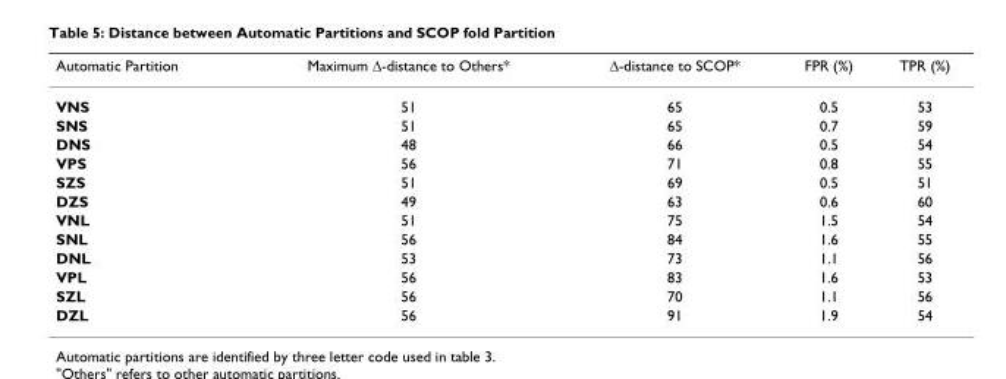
<table><thead><tr><td>Automatic Partition</td><td>Maximum Δ-distance to Others*</td><td>Δ-distance to SCOP*</td><td>FPR (%)</td><td>TPR (%)</td></tr></thead><tbody><tr><td>VNS</td><td>51</td><td>65</td><td>0.5</td><td>53</td></tr><tr><td>SNS</td><td>51</td><td>65</td><td>0.7</td><td>59</td></tr><tr><td>DNS</td><td>48</td><td>66</td><td>0.5</td><td>54</td></tr><tr><td>VPS</td><td>56</td><td>71</td><td>0.8</td><td>55</td></tr><tr><td>SZS</td><td>51</td><td>69</td><td>0.5</td><td>51</td></tr><tr><td>DZS</td><td>49</td><td>63</td><td>0.6</td><td>60</td></tr><tr><td>VNL</td><td>51</td><td>75</td><td>1.5</td><td>54</td></tr><tr><td>SNL</td><td>56</td><td>84</td><td>1.6</td><td>55</td></tr><tr><td>DNL</td><td>53</td><td>73</td><td>1.1</td><td>56</td></tr><tr><td>VPL</td><td>56</td><td>83</td><td>1.6</td><td>53</td></tr><tr><td>SZL</td><td>56</td><td>70</td><td>1.1</td><td>56</td></tr><tr><td>DZL</td><td>56</td><td>91</td><td>1.9</td><td>54</td></tr></tbody></table>